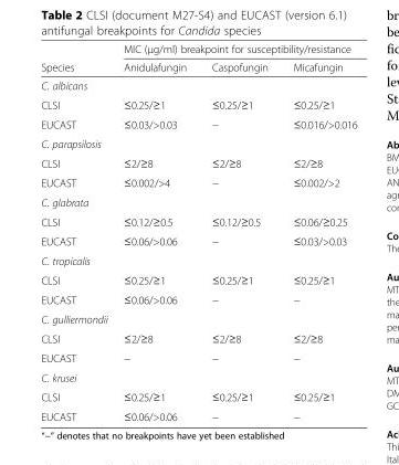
<table><thead><tr><td rowspan="2">Species</td><td colspan="3">MIC (μg/ml) breakpoint for susceptibility/resistance</td></tr><tr><td>Anidulafungin</td><td>Caspofungin</td><td>Micafungin</td></tr></thead><tbody><tr><td colspan="4">C. albicans</td></tr><tr><td>CLSI</td><td>≤0.25/≥1</td><td>≤0.25/≥1</td><td>≤0.25/≥1</td></tr><tr><td>EUCAST</td><td>≤0.03/&gt;0.03</td><td>−</td><td>≤0.016/&gt;0.016</td></tr><tr><td colspan="4">C. parapsilosis</td></tr><tr><td>CLSI</td><td>≤2/≥8</td><td>≤2/≥8</td><td>≤2/≥8</td></tr><tr><td>EUCAST</td><td>≤0.002/&gt;4</td><td>−</td><td>≤0.002/&gt;2</td></tr><tr><td colspan="4">C. glabrata</td></tr><tr><td>CLSI</td><td>≤0.12/≥0.5</td><td>≤0.12/≥0.5</td><td>≤0.06/≥0.25</td></tr><tr><td>EUCAST</td><td>≤0.06/&gt;0.06</td><td>−</td><td>≤0.03/&gt;0.03</td></tr><tr><td colspan="4">C. tropicalis</td></tr><tr><td>CLSI</td><td>≤0.25/≥1</td><td>≤0.25/≥1</td><td>≤0.25/≥1</td></tr><tr><td>EUCAST</td><td>≤0.06/&gt;0.06</td><td>−</td><td>−</td></tr><tr><td colspan="4">C. gulliermondii</td></tr><tr><td>CLSI</td><td>≤2/≥8</td><td>≤2/≥8</td><td>≤2/≥8</td></tr><tr><td>EUCAST</td><td>−</td><td>−</td><td>−</td></tr><tr><td colspan="4">C. krusei</td></tr><tr><td>CLSI</td><td>≤0.25/≥1</td><td>≤0.25/≥1</td><td>≤0.25/≥1</td></tr><tr><td>EUCAST</td><td>≤0.06/&gt;0.06</td><td>−</td><td>−</td></tr></tbody></table>